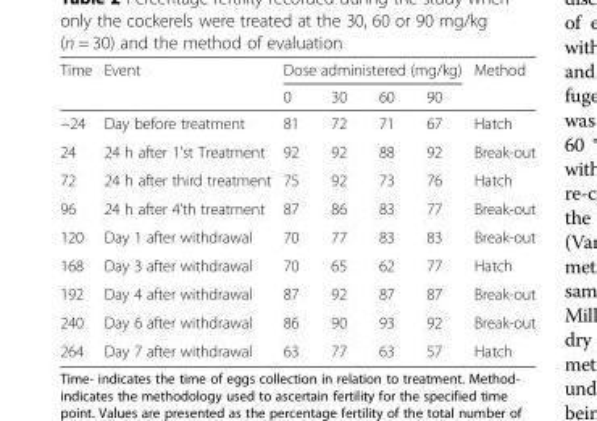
<table><thead><tr><td rowspan="2">Time</td><td rowspan="2">Event</td><td colspan="4">Dose administered (mg/kg)</td><td rowspan="2">Method</td></tr><tr><td>0</td><td>30</td><td>60</td><td>90</td></tr></thead><tbody><tr><td>−24</td><td>Day before treatment</td><td>81</td><td>72</td><td>71</td><td>67</td><td>Hatch</td></tr><tr><td>24</td><td>24 h after 1’st Treatment</td><td>92</td><td>92</td><td>88</td><td>92</td><td>Break-out</td></tr><tr><td>72</td><td>24 h after third treatment</td><td>75</td><td>92</td><td>73</td><td>76</td><td>Hatch</td></tr><tr><td>96</td><td>24 h after 4’th treatment</td><td>87</td><td>86</td><td>83</td><td>77</td><td>Break-out</td></tr><tr><td>120</td><td>Day 1 after withdrawal</td><td>70</td><td>77</td><td>83</td><td>83</td><td>Break-out</td></tr><tr><td>168</td><td>Day 3 after withdrawal</td><td>70</td><td>65</td><td>62</td><td>77</td><td>Hatch</td></tr><tr><td>192</td><td>Day 4 after withdrawal</td><td>87</td><td>92</td><td>87</td><td>87</td><td>Break-out</td></tr><tr><td>240</td><td>Day 6 after withdrawal</td><td>86</td><td>90</td><td>93</td><td>92</td><td>Break-out</td></tr><tr><td>264</td><td>Day 7 after withdrawal</td><td>63</td><td>77</td><td>63</td><td>57</td><td>Hatch</td></tr></tbody></table>